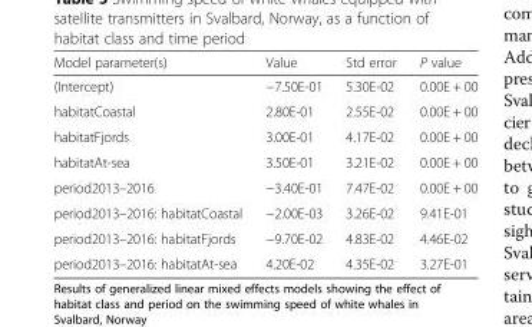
<table><thead><tr><td>Model parameter(s)</td><td>Value</td><td>Std error</td><td>P value</td></tr></thead><tbody><tr><td>(Intercept)</td><td>−7.50E-01</td><td>5.30E-02</td><td>0.00E + 00</td></tr><tr><td>habitatCoastal</td><td>2.80E-01</td><td>2.55E-02</td><td>0.00E + 00</td></tr><tr><td>habitatFjords</td><td>3.00E-01</td><td>4.17E-02</td><td>0.00E + 00</td></tr><tr><td>habitatAt-sea</td><td>3.50E-01</td><td>3.21E-02</td><td>0.00E + 00</td></tr><tr><td>period2013–2016</td><td>−3.40E-01</td><td>7.47E-02</td><td>0.00E + 00</td></tr><tr><td>period2013–2016: habitatCoastal</td><td>−2.00E-03</td><td>3.26E-02</td><td>9.41E-01</td></tr><tr><td>period2013–2016: habitatFjords</td><td>−9.70E-02</td><td>4.83E-02</td><td>4.46E-02</td></tr><tr><td>period2013–2016: habitatAt-sea</td><td>4.20E-02</td><td>4.35E-02</td><td>3.27E-01</td></tr></tbody></table>